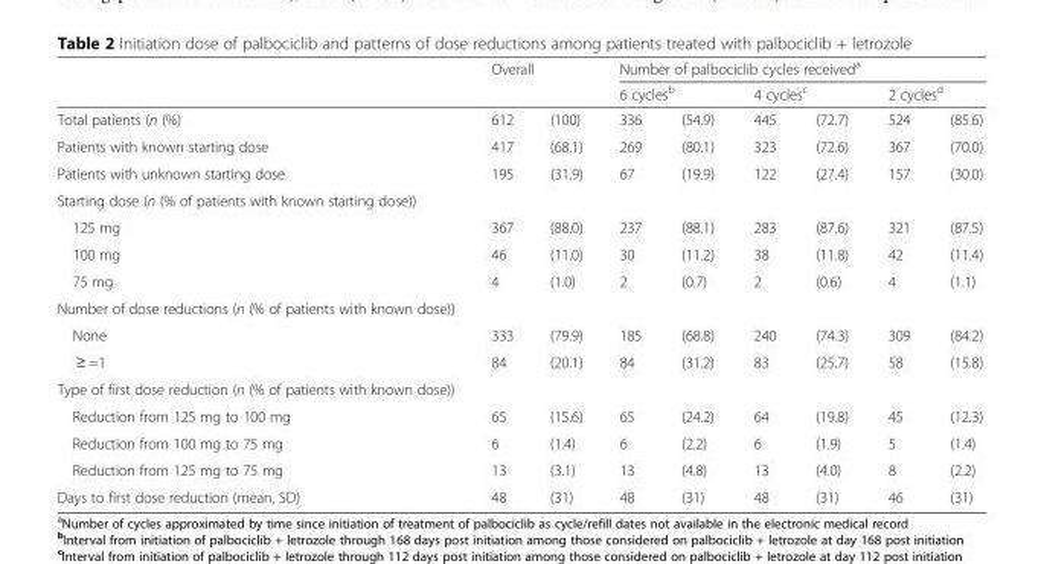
<table><thead><tr><td rowspan="3">Total patients (n (%)</td><td rowspan="2" colspan="2">Overall</td><td colspan="6">Number of palbociclib cycles received<sup>a</sup></td></tr><tr><td colspan="2">6 cycles<sup>b</sup></td><td colspan="2">4 cycles<sup>c</sup></td><td colspan="2">2 cycles<sup>d</sup></td></tr><tr><td>612</td><td>(100)</td><td>336</td><td>(54.9)</td><td>445</td><td>(72.7)</td><td>524</td><td>(85.6)</td></tr></thead><tbody><tr><td>Patients with known starting dose</td><td>417</td><td>(68.1)</td><td>269</td><td>(80.1)</td><td>323</td><td>(72.6)</td><td>367</td><td>(70.0)</td></tr><tr><td>Patients with unknown starting dose</td><td>195</td><td>(31.9)</td><td>67</td><td>(19.9)</td><td>122</td><td>(27.4)</td><td>157</td><td>(30.0)</td></tr><tr><td colspan="9">Starting dose (n (% of patients with known starting dose))</td></tr><tr><td>125 mg</td><td>367</td><td>(88.0)</td><td>237</td><td>(88.1)</td><td>283</td><td>(87.6)</td><td>321</td><td>(87.5)</td></tr><tr><td>100 mg</td><td>46</td><td>(11.0)</td><td>30</td><td>(11.2)</td><td>38</td><td>(11.8)</td><td>42</td><td>(11.4)</td></tr><tr><td>75 mg</td><td>4</td><td>(1.0)</td><td>2</td><td>(0.7)</td><td>2</td><td>(0.6)</td><td>4</td><td>(1.1)</td></tr><tr><td colspan="9">Number of dose reductions (n (% of patients with known dose))</td></tr><tr><td>None</td><td>333</td><td>(79.9)</td><td>185</td><td>(68.8)</td><td>240</td><td>(74.3)</td><td>309</td><td>(84.2)</td></tr><tr><td>≥ =1</td><td>84</td><td>(20.1)</td><td>84</td><td>(31.2)</td><td>83</td><td>(25.7)</td><td>58</td><td>(15.8)</td></tr><tr><td colspan="9">Type of first dose reduction (n (% of patients with known dose))</td></tr><tr><td>Reduction from 125 mg to 100 mg</td><td>65</td><td>(15.6)</td><td>65</td><td>(24.2)</td><td>64</td><td>(19.8)</td><td>45</td><td>(12.3)</td></tr><tr><td>Reduction from 100 mg to 75 mg</td><td>6</td><td>(1.4)</td><td>6</td><td>(2.2)</td><td>6</td><td>(1.9)</td><td>5</td><td>(1.4)</td></tr><tr><td>Reduction from 125 mg to 75 mg</td><td>13</td><td>(3.1)</td><td>13</td><td>(4.8)</td><td>13</td><td>(4.0)</td><td>8</td><td>(2.2)</td></tr><tr><td>Days to first dose reduction (mean, SD)</td><td>48</td><td>(31)</td><td>48</td><td>(31)</td><td>48</td><td>(31)</td><td>46</td><td>(31)</td></tr></tbody></table>